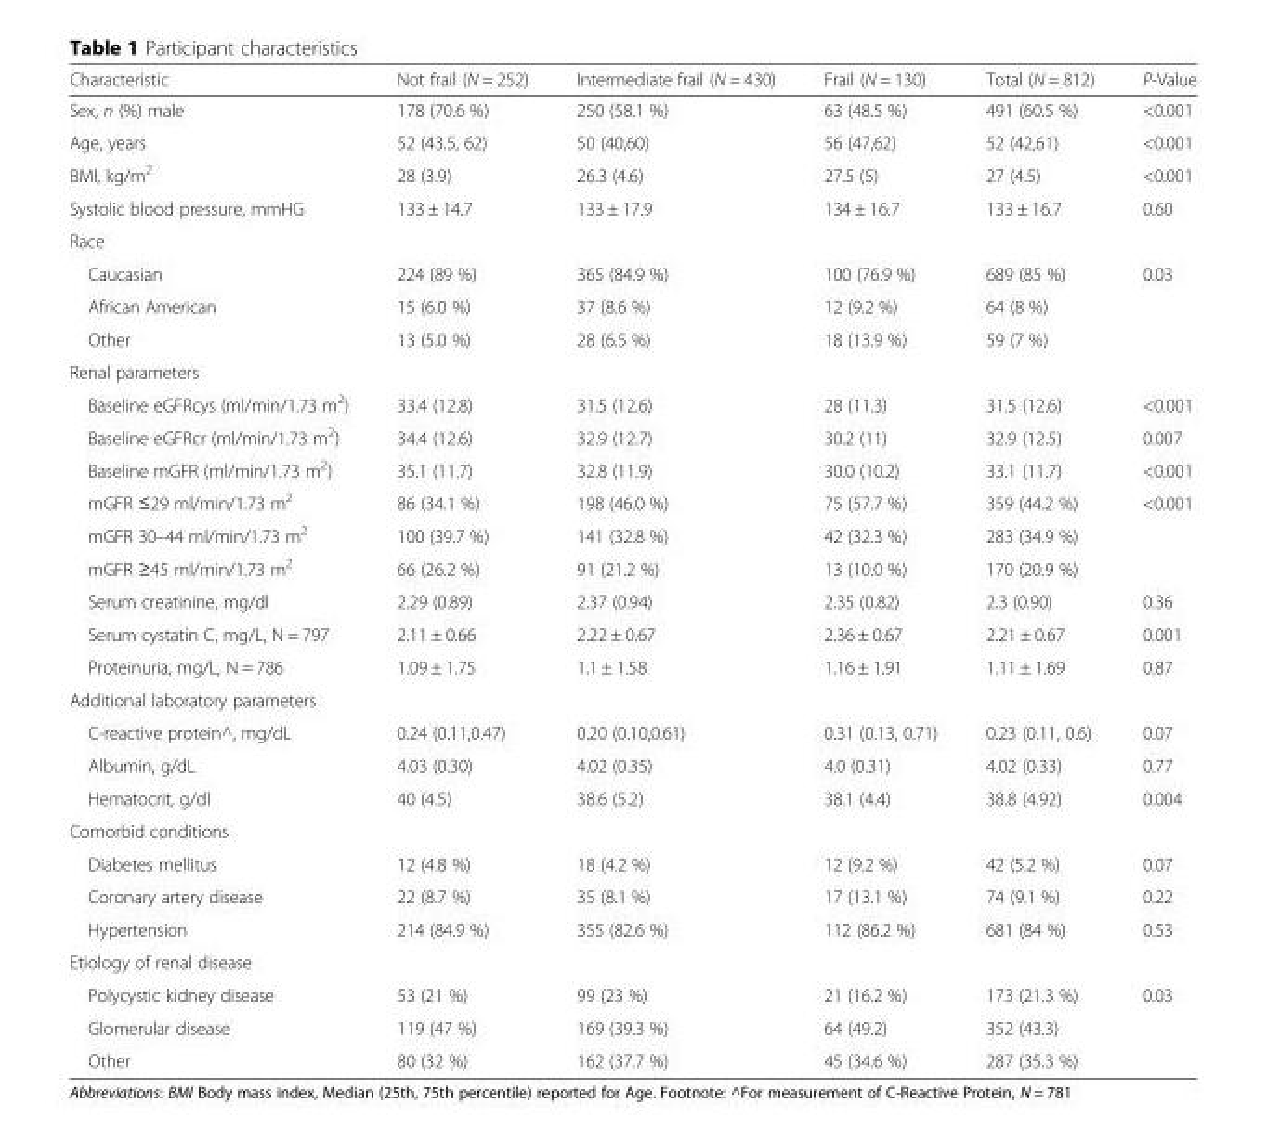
<table><thead><tr><td>Characteristic</td><td>Not frail (N = 252)</td><td>Intermediate frail (N = 430)</td><td>Frail (N = 130)</td><td>Total (N = 812)</td><td>P-Value</td></tr></thead><tbody><tr><td>Sex, n (%) male</td><td>178 (70.6 %)</td><td>250 (58.1 %)</td><td>63 (48.5 %)</td><td>491 (60.5 %)</td><td>&lt;0.001</td></tr><tr><td>Age, years</td><td>52 (43.5, 62)</td><td>50 (40,60)</td><td>56 (47,62)</td><td>52 (42,61)</td><td>&lt;0.001</td></tr><tr><td>BMI, kg/m<sup>2</sup></td><td>28 (3.9)</td><td>26.3 (4.6)</td><td>27.5 (5)</td><td>27 (4.5)</td><td>&lt;0.001</td></tr><tr><td>Systolic blood pressure, mmHG</td><td>133 ± 14.7</td><td>133 ± 17.9</td><td>134 ± 16.7</td><td>133 ± 16.7</td><td>0.60</td></tr><tr><td colspan="6">Race</td></tr><tr><td>Caucasian</td><td>224 (89 %)</td><td>365 (84.9 %)</td><td>100 (76.9 %)</td><td>689 (85 %)</td><td>0.03</td></tr><tr><td>African American</td><td>15 (6.0 %)</td><td>37 (8.6 %)</td><td>12 (9.2 %)</td><td>64 (8 %)</td><td></td></tr><tr><td>Other</td><td>13 (5.0 %)</td><td>28 (6.5 %)</td><td>18 (13.9 %)</td><td>59 (7 %)</td><td></td></tr><tr><td colspan="6">Renal parameters</td></tr><tr><td>Baseline eGFRcys (ml/min/1.73 m<sup>2</sup>)</td><td>33.4 (12.8)</td><td>31.5 (12.6)</td><td>28 (11.3)</td><td>31.5 (12.6)</td><td>&lt;0.001</td></tr><tr><td>Baseline eGFRcr (ml/min/1.73 m<sup>2</sup>)</td><td>34.4 (12.6)</td><td>32.9 (12.7)</td><td>30.2 (11)</td><td>32.9 (12.5)</td><td>0.007</td></tr><tr><td>Baseline mGFR (ml/min/1.73 m<sup>2</sup>)</td><td>35.1 (11.7)</td><td>32.8 (11.9)</td><td>30.0 (10.2)</td><td>33.1 (11.7)</td><td>&lt;0.001</td></tr><tr><td>mGFR ≤29 ml/min/1.73 m<sup>2</sup></td><td>86 (34.1 %)</td><td>198 (46.0 %)</td><td>75 (57.7 %)</td><td>359 (44.2 %)</td><td>&lt;0.001</td></tr><tr><td>mGFR 30–44 ml/min/1.73 m<sup>2</sup></td><td>100 (39.7 %)</td><td>141 (32.8 %)</td><td>42 (32.3 %)</td><td>283 (34.9 %)</td><td></td></tr><tr><td>mGFR ≥45 ml/min/1.73 m<sup>2</sup></td><td>66 (26.2 %)</td><td>91 (21.2 %)</td><td>13 (10.0 %)</td><td>170 (20.9 %)</td><td></td></tr><tr><td>Serum creatinine, mg/dl</td><td>2.29 (0.89)</td><td>2.37 (0.94)</td><td>2.35 (0.82)</td><td>2.3 (0.90)</td><td>0.36</td></tr><tr><td>Serum cystatin C, mg/L, N = 797</td><td>2.11 ± 0.66</td><td>2.22 ± 0.67</td><td>2.36 ± 0.67</td><td>2.21 ± 0.67</td><td>0.001</td></tr><tr><td>Proteinuria, mg/L, N = 786</td><td>1.09 ± 1.75</td><td>1.1 ± 1.58</td><td>1.16 ± 1.91</td><td>1.11 ± 1.69</td><td>0.87</td></tr><tr><td colspan="6">Additional laboratory parameters</td></tr><tr><td>C-reactive protein^, mg/dL</td><td>0.24 (0.11,0.47)</td><td>0.20 (0.10,0.61)</td><td>0.31 (0.13, 0.71)</td><td>0.23 (0.11, 0.6)</td><td>0.07</td></tr><tr><td>Albumin, g/dL</td><td>4.03 (0.30)</td><td>4.02 (0.35)</td><td>4.0 (0.31)</td><td>4.02 (0.33)</td><td>0.77</td></tr><tr><td>Hematocrit, g/dl</td><td>40 (4.5)</td><td>38.6 (5.2)</td><td>38.1 (4.4)</td><td>38.8 (4.92)</td><td>0.004</td></tr><tr><td colspan="6">Comorbid conditions</td></tr><tr><td>Diabetes mellitus</td><td>12 (4.8 %)</td><td>18 (4.2 %)</td><td>12 (9.2 %)</td><td>42 (5.2 %)</td><td>0.07</td></tr><tr><td>Coronary artery disease</td><td>22 (8.7 %)</td><td>35 (8.1 %)</td><td>17 (13.1 %)</td><td>74 (9.1 %)</td><td>0.22</td></tr><tr><td>Hypertension</td><td>214 (84.9 %)</td><td>355 (82.6 %)</td><td>112 (86.2 %)</td><td>681 (84 %)</td><td>0.53</td></tr><tr><td colspan="6">Etiology of renal disease</td></tr><tr><td>Polycystic kidney disease</td><td>53 (21 %)</td><td>99 (23 %)</td><td>21 (16.2 %)</td><td>173 (21.3 %)</td><td>0.03</td></tr><tr><td>Glomerular disease</td><td>119 (47 %)</td><td>169 (39.3 %)</td><td>64 (49.2)</td><td>352 (43.3)</td><td></td></tr><tr><td>Other</td><td>80 (32 %)</td><td>162 (37.7 %)</td><td>45 (34.6 %)</td><td>287 (35.3 %)</td><td></td></tr></tbody></table>